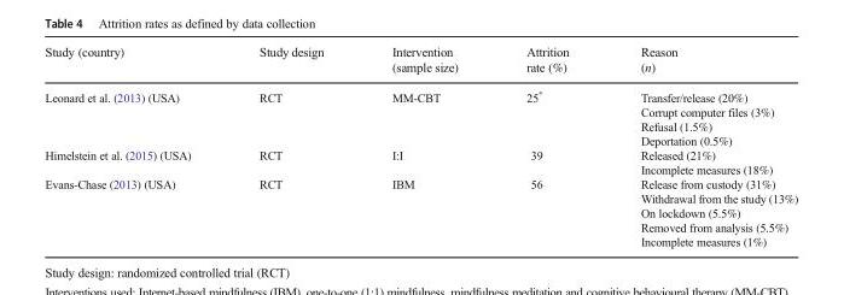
<table><thead><tr><td>Study (country)</td><td>Study design</td><td>Intervention (sample size)</td><td>Attrition rate (%)</td><td>Reason (n)</td></tr></thead><tbody><tr><td rowspan="4">Leonard et al. (2013) (USA)</td><td rowspan="4">RCT</td><td rowspan="4">MM-CBT</td><td rowspan="4">25*</td><td>Transfer/release (20%)</td></tr><tr><td>Corrupt computer files (3%)</td></tr><tr><td>Refusal (1.5%)</td></tr><tr><td>Deportation (0.5%)</td></tr><tr><td rowspan="2">Himelstein et al. (2015) (USA)</td><td rowspan="2">RCT</td><td rowspan="2">I:I</td><td rowspan="2">39</td><td>Released (21%)</td></tr><tr><td>Incomplete measures (18%)</td></tr><tr><td rowspan="5">Evans-Chase (2013) (USA)</td><td rowspan="5">RCT</td><td rowspan="5">IBM</td><td rowspan="5">56</td><td>Release from custody (31%)</td></tr><tr><td>Withdrawal from the study (13%)</td></tr><tr><td>On lockdown (5.5%)</td></tr><tr><td>Removed from analysis (5.5%)</td></tr><tr><td>Incomplete measures (1%)</td></tr></tbody></table>